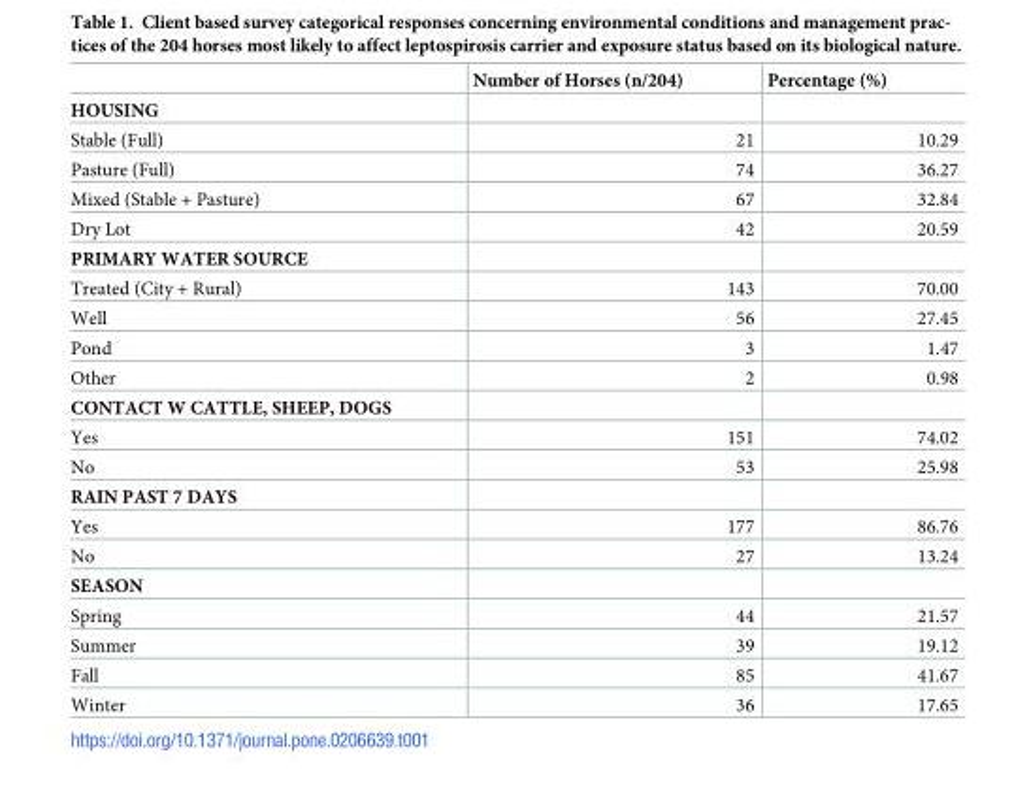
<table><thead><tr><td></td><td>Number of Horses (n/204)</td><td>Percentage (%)</td></tr></thead><tbody><tr><td colspan="3">HOUSING</td></tr><tr><td>Stable (Full)</td><td>21</td><td>10.29</td></tr><tr><td>Pasture (Full)</td><td>74</td><td>36.27</td></tr><tr><td>Mixed (Stable + Pasture)</td><td>67</td><td>32.84</td></tr><tr><td>Dry Lot</td><td>42</td><td>20.59</td></tr><tr><td colspan="3">PRIMARY WATER SOURCE</td></tr><tr><td>Treated (City + Rural)</td><td>143</td><td>70.00</td></tr><tr><td>Well</td><td>56</td><td>27.45</td></tr><tr><td>Pond</td><td>3</td><td>1.47</td></tr><tr><td>Other</td><td>2</td><td>0.98</td></tr><tr><td colspan="3">CONTACT W CATTLE, SHEEP, DOGS</td></tr><tr><td>Yes</td><td>151</td><td>74.02</td></tr><tr><td>No</td><td>53</td><td>25.98</td></tr><tr><td colspan="3">RAIN PAST 7 DAYS</td></tr><tr><td>Yes</td><td>177</td><td>86.76</td></tr><tr><td>No</td><td>27</td><td>13.24</td></tr><tr><td colspan="3">SEASON</td></tr><tr><td>Spring</td><td>44</td><td>21.57</td></tr><tr><td>Summer</td><td>39</td><td>19.12</td></tr><tr><td>Fall</td><td>85</td><td>41.67</td></tr><tr><td>Winter</td><td>36</td><td>17.65</td></tr></tbody></table>